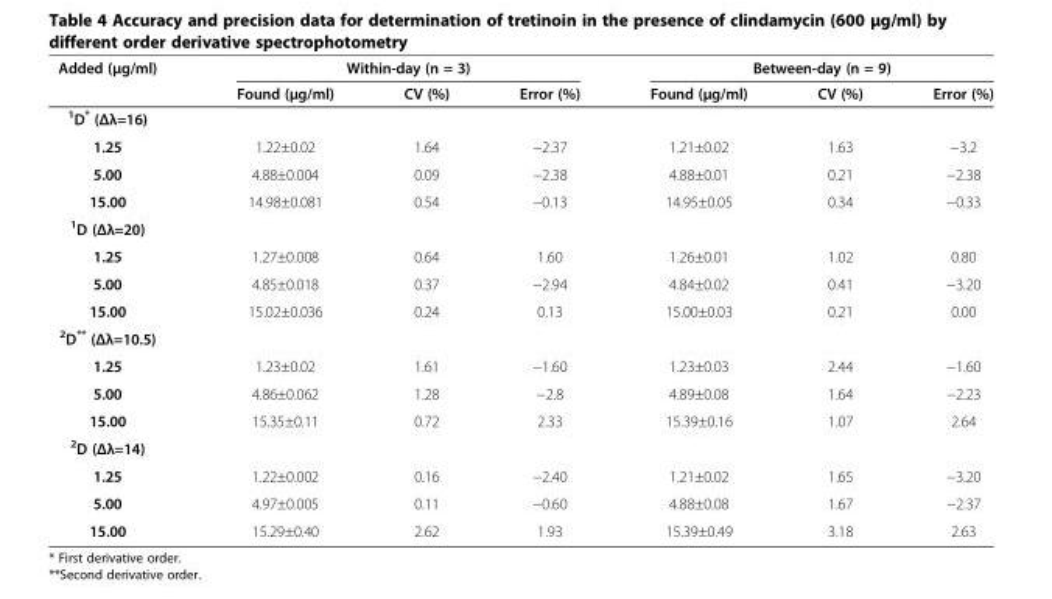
<table><thead><tr><td rowspan="2">Added (μg/ml)</td><td colspan="3">Within-day (n = 3)</td><td colspan="3">Between-day (n = 9)</td></tr><tr><td>Found (μg/ml)</td><td>CV (%)</td><td>Error (%)</td><td>Found (μg/ml)</td><td>CV (%)</td><td>Error (%)</td></tr></thead><tbody><tr><td colspan="7"><sup>1</sup>D* (Δλ=16)</td></tr><tr><td>1.25</td><td>1.22±0.02</td><td>1.64</td><td>−2.37</td><td>1.21±0.02</td><td>1.63</td><td>−3.2</td></tr><tr><td>5.00</td><td>4.88±0.004</td><td>0.09</td><td>−2.38</td><td>4.88±0.01</td><td>0.21</td><td>−2.38</td></tr><tr><td>15.00</td><td>14.98±0.081</td><td>0.54</td><td>−0.13</td><td>14.95±0.05</td><td>0.34</td><td>−0.33</td></tr><tr><td colspan="7"><sup>1</sup>D (Δλ=20)</td></tr><tr><td>1.25</td><td>1.27±0.008</td><td>0.64</td><td>1.60</td><td>1.26±0.01</td><td>1.02</td><td>0.80</td></tr><tr><td>5.00</td><td>4.85±0.018</td><td>0.37</td><td>−2.94</td><td>4.84±0.02</td><td>0.41</td><td>−3.20</td></tr><tr><td>15.00</td><td>15.02±0.036</td><td>0.24</td><td>0.13</td><td>15.00±0.03</td><td>0.21</td><td>0.00</td></tr><tr><td colspan="7"><sup>2</sup>D** (Δλ=10.5)</td></tr><tr><td>1.25</td><td>1.23±0.02</td><td>1.61</td><td>−1.60</td><td>1.23±0.03</td><td>2.44</td><td>−1.60</td></tr><tr><td>5.00</td><td>4.86±0.062</td><td>1.28</td><td>−2.8</td><td>4.89±0.08</td><td>1.64</td><td>−2.23</td></tr><tr><td>15.00</td><td>15.35±0.11</td><td>0.72</td><td>2.33</td><td>15.39±0.16</td><td>1.07</td><td>2.64</td></tr><tr><td colspan="7"><sup>2</sup>D (Δλ=14)</td></tr><tr><td>1.25</td><td>1.22±0.002</td><td>0.16</td><td>−2.40</td><td>1.21±0.02</td><td>1.65</td><td>−3.20</td></tr><tr><td>5.00</td><td>4.97±0.005</td><td>0.11</td><td>−0.60</td><td>4.88±0.08</td><td>1.67</td><td>−2.37</td></tr><tr><td>15.00</td><td>15.29±0.40</td><td>2.62</td><td>1.93</td><td>15.39±0.49</td><td>3.18</td><td>2.63</td></tr></tbody></table>